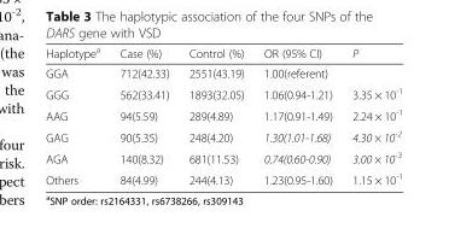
<table><thead><tr><td>Haplotype<sup>a</sup></td><td>Case (%)</td><td>Control (%)</td><td>OR (95% CI)</td><td>P</td></tr></thead><tbody><tr><td>GGA</td><td>712(42.33)</td><td>2551(43.19)</td><td>1.00(referent)</td><td></td></tr><tr><td>GGG</td><td>562(33.41)</td><td>1893(32.05)</td><td>1.06(0.94-1.21)</td><td>3.35 × 10<sup>-1</sup></td></tr><tr><td>AAG</td><td>94(5.59)</td><td>289(4.89)</td><td>1.17(0.91-1.49)</td><td>2.24 × 10<sup>-1</sup></td></tr><tr><td>GAG</td><td>90(5.35)</td><td>248(4.20)</td><td>1.30(1.01-1.68)</td><td>4.30 × 10<sup>-2</sup></td></tr><tr><td>AGA</td><td>140(8.32)</td><td>681(11.53)</td><td>0.74(0.60-0.90)</td><td>3.00 × 10<sup>-3</sup></td></tr><tr><td>Others</td><td>84(4.99)</td><td>244(4.13)</td><td>1.23(0.95-1.60)</td><td>1.15 × 10<sup>-1</sup></td></tr></tbody></table>